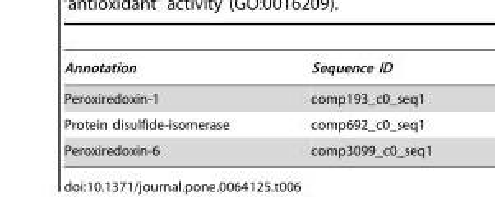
<table><thead><tr><td>Annotation</td><td>Sequence ID</td></tr></thead><tbody><tr><td>Peroxiredoxin-1</td><td>comp193_c0_seq1</td></tr><tr><td>Protein disulfide-isomerase</td><td>comp692_c0_seq1</td></tr><tr><td>Peroxiredoxin-6</td><td>comp3099_c0_seq1</td></tr></tbody></table>